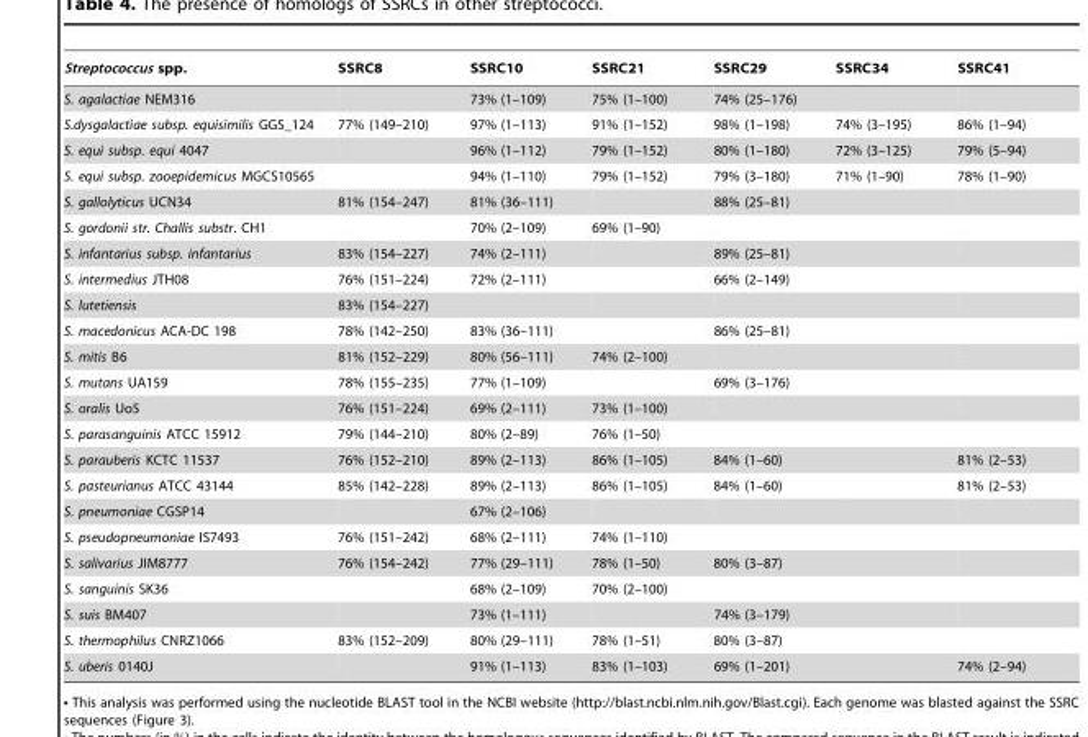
<table><thead><tr><td>Streptococcus spp.</td><td>SSRC8</td><td>SSRC10</td><td>SSRC21</td><td>SSRC29</td><td>SSRC34</td><td>SSRC41</td></tr></thead><tbody><tr><td>S. agalactiae NEM316</td><td></td><td>73% (1–109)</td><td>75% (1–100)</td><td>74% (25–176)</td><td></td><td></td></tr><tr><td>S.dysgalactiae subsp. equisimilis GGS_124</td><td>77% (149–210)</td><td>97% (1–113)</td><td>91% (1–152)</td><td>98% (1–198)</td><td>74% (3–195)</td><td>86% (1–94)</td></tr><tr><td>S. equi subsp. equi 4047</td><td></td><td>96% (1–112)</td><td>79% (1–152)</td><td>80% (1–180)</td><td>72% (3–125)</td><td>79% (5–94)</td></tr><tr><td>S. equi subsp. zooepidemicus MGCS10565</td><td></td><td>94% (1–110)</td><td>79% (1–152)</td><td>79% (3–180)</td><td>71% (1–90)</td><td>78% (1–90)</td></tr><tr><td>S. gallolyticus UCN34</td><td>81% (154–247)</td><td>81% (36–111)</td><td></td><td>88% (25–81)</td><td></td><td></td></tr><tr><td>S. gordonii str. Challis substr. CH1</td><td></td><td>70% (2–109)</td><td>69% (1–90)</td><td></td><td></td><td></td></tr><tr><td>S. infantarius subsp. infantarius</td><td>83% (154–227)</td><td>74% (2–111)</td><td></td><td>89% (25–81)</td><td></td><td></td></tr><tr><td>S. intermedius JTH08</td><td>76% (151–224)</td><td>72% (2–111)</td><td></td><td>66% (2–149)</td><td></td><td></td></tr><tr><td>S. lutetiensis</td><td>83% (154–227)</td><td></td><td></td><td></td><td></td><td></td></tr><tr><td>S. macedonicus ACA-DC 198</td><td>78% (142–250)</td><td>83% (36–111)</td><td></td><td>86% (25–81)</td><td></td><td></td></tr><tr><td>S. mitis B6</td><td>81% (152–229)</td><td>80% (56–111)</td><td>74% (2–100)</td><td></td><td></td><td></td></tr><tr><td>S. mutans UA159</td><td>78% (155–235)</td><td>77% (1–109)</td><td></td><td>69% (3–176)</td><td></td><td></td></tr><tr><td>S. oralis Uo5</td><td>76% (151–224)</td><td>69% (2–111)</td><td>73% (1–100)</td><td></td><td></td><td></td></tr><tr><td>S. parasanguinis ATCC 15912</td><td>79% (144–210)</td><td>80% (2–89)</td><td>76% (1–50)</td><td></td><td></td><td></td></tr><tr><td>S. parauberis KCTC 11537</td><td>76% (152–210)</td><td>89% (2–113)</td><td>86% (1–105)</td><td>84% (1–60)</td><td></td><td>81% (2–53)</td></tr><tr><td>S. pasteurianus ATCC 43144</td><td>85% (142–228)</td><td>89% (2–113)</td><td>86% (1–105)</td><td>84% (1–60)</td><td></td><td>81% (2–53)</td></tr><tr><td>S. pneumoniae CGSP14</td><td></td><td>67% (2–106)</td><td></td><td></td><td></td><td></td></tr><tr><td>S. pseudopneumoniae IS7493</td><td>76% (151–242)</td><td>68% (2–111)</td><td>74% (1–110)</td><td></td><td></td><td></td></tr><tr><td>S. salivarius JIM8777</td><td>76% (154–242)</td><td>77% (29–111)</td><td>78% (1–50)</td><td>80% (3–87)</td><td></td><td></td></tr><tr><td>S. sanguinis SK36</td><td></td><td>68% (2–109)</td><td>70% (2–100)</td><td></td><td></td><td></td></tr><tr><td>S. suis BM407</td><td></td><td>73% (1–111)</td><td></td><td>74% (3–179)</td><td></td><td></td></tr><tr><td>S. thermophilus CNRZ1066</td><td>83% (152–209)</td><td>80% (29–111)</td><td>78% (1–51)</td><td>80% (3–87)</td><td></td><td></td></tr><tr><td>S. uberis 0140J</td><td></td><td>91% (1–113)</td><td>83% (1–103)</td><td>69% (1–201)</td><td></td><td>74% (2–94)</td></tr></tbody></table>